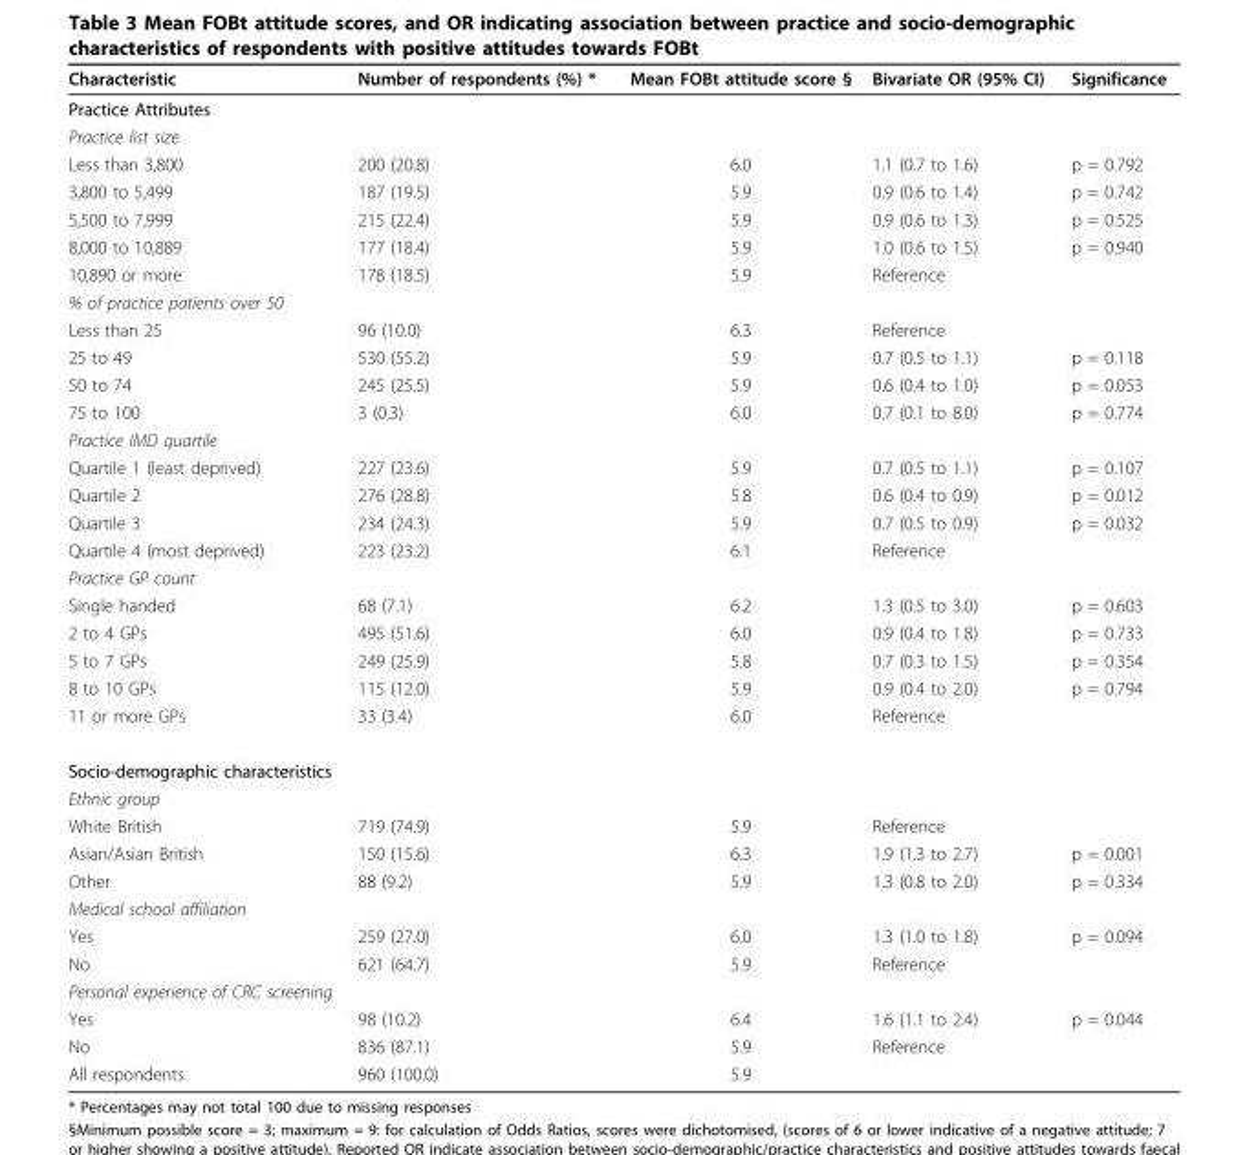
<table><thead><tr><td>Characteristic</td><td>Number of respondents (%) *</td><td>Mean FOBt attitude score §</td><td>Bivariate OR (95% CI)</td><td>Significance</td></tr></thead><tbody><tr><td colspan="5">Practice Attributes</td></tr><tr><td colspan="5">Practice list size</td></tr><tr><td>Less than 3,800</td><td>200 (20.8)</td><td>6.0</td><td>1.1 (0.7 to 1.6)</td><td>p = 0.792</td></tr><tr><td>3,800 to 5,499</td><td>187 (19.5)</td><td>5.9</td><td>0.9 (0.6 to 1.4)</td><td>p = 0.742</td></tr><tr><td>5,500 to 7,999</td><td>215 (22.4)</td><td>5.9</td><td>0.9 (0.6 to 1.3)</td><td>p = 0.525</td></tr><tr><td>8,000 to 10,889</td><td>177 (18.4)</td><td>5.9</td><td>1.0 (0.6 to 1.5)</td><td>p = 0.940</td></tr><tr><td>10,890 or more</td><td>178 (18.5)</td><td>5.9</td><td>Reference</td><td></td></tr><tr><td colspan="5">% of practice patients over 50</td></tr><tr><td>Less than 25</td><td>96 (10.0)</td><td>6.3</td><td>Reference</td><td></td></tr><tr><td>25 to 49</td><td>530 (55.2)</td><td>5.9</td><td>0.7 (0.5 to 1.1)</td><td>p = 0.118</td></tr><tr><td>50 to 74</td><td>245 (25.5)</td><td>5.9</td><td>0.6 (0.4 to 1.0)</td><td>p = 0.053</td></tr><tr><td>75 to 100</td><td>3 (0.3)</td><td>6.0</td><td>0.7 (0.1 to 8.0)</td><td>p = 0.774</td></tr><tr><td colspan="5">Practice IMD quartile</td></tr><tr><td>Quartile 1 (least deprived)</td><td>227 (23.6)</td><td>5.9</td><td>0.7 (0.5 to 1.1)</td><td>p = 0.107</td></tr><tr><td>Quartile 2</td><td>276 (28.8)</td><td>5.8</td><td>0.6 (0.4 to 0.9)</td><td>p = 0.012</td></tr><tr><td>Quartile 3</td><td>234 (24.3)</td><td>5.9</td><td>0.7 (0.5 to 0.9)</td><td>p = 0.032</td></tr><tr><td>Quartile 4 (most deprived)</td><td>223 (23.2)</td><td>6.1</td><td>Reference</td><td></td></tr><tr><td colspan="5">Practice GP count</td></tr><tr><td>Single handed</td><td>68 (7.1)</td><td>6.2</td><td>1.3 (0.5 to 3.0)</td><td>p = 0.603</td></tr><tr><td>2 to 4 GPs</td><td>495 (51.6)</td><td>6.0</td><td>0.9 (0.4 to 1.8)</td><td>p = 0.733</td></tr><tr><td>5 to 7 GPs</td><td>249 (25.9)</td><td>5.8</td><td>0.7 (0.3 to 1.5)</td><td>p = 0.354</td></tr><tr><td>8 to 10 GPs</td><td>115 (12.0)</td><td>5.9</td><td>0.9 (0.4 to 2.0)</td><td>p = 0.794</td></tr><tr><td>11 or more GPs</td><td>33 (3.4)</td><td>6.0</td><td>Reference</td><td></td></tr><tr><td colspan="5">Socio-demographic characteristics</td></tr><tr><td colspan="5">Ethnic group</td></tr><tr><td>White British</td><td>719 (74.9)</td><td>5.9</td><td>Reference</td><td></td></tr><tr><td>Asian/Asian British</td><td>150 (15.6)</td><td>6.3</td><td>1.9 (1.3 to 2.7)</td><td>p = 0.001</td></tr><tr><td>Other</td><td>88 (9.2)</td><td>5.9</td><td>1.3 (0.8 to 2.0)</td><td>p = 0.334</td></tr><tr><td colspan="5">Medical school affiliation</td></tr><tr><td>Yes</td><td>259 (27.0)</td><td>6.0</td><td>1.3 (1.0 to 1.8)</td><td>p = 0.094</td></tr><tr><td>No</td><td>621 (64.7)</td><td>5.9</td><td>Reference</td><td></td></tr><tr><td colspan="5">Personal experience of CRC screening</td></tr><tr><td>Yes</td><td>98 (10.2)</td><td>6.4</td><td>1.6 (1.1 to 2.4)</td><td>p = 0.044</td></tr><tr><td>No</td><td>836 (87.1)</td><td>5.9</td><td>Reference</td><td></td></tr><tr><td>All respondents</td><td>960 (100.0)</td><td>5.9</td><td></td><td></td></tr></tbody></table>